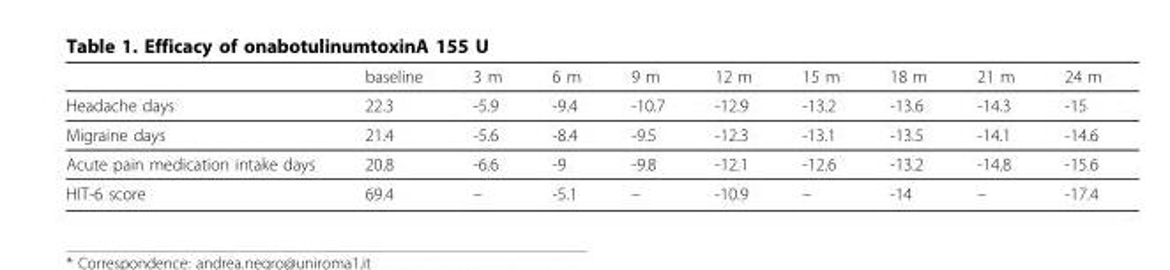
<table><thead><tr><td></td><td>baseline</td><td>3 m</td><td>6 m</td><td>9 m</td><td>12 m</td><td>15 m</td><td>18 m</td><td>21 m</td><td>24 m</td></tr></thead><tbody><tr><td>Headache days</td><td>22.3</td><td>-5.9</td><td>-9.4</td><td>-10.7</td><td>-12.9</td><td>-13.2</td><td>-13.6</td><td>-14.3</td><td>-15</td></tr><tr><td>Migraine days</td><td>21.4</td><td>-5.6</td><td>-8.4</td><td>-9.5</td><td>-12.3</td><td>-13.1</td><td>-13.5</td><td>-14.1</td><td>-14.6</td></tr><tr><td>Acute pain medication intake days</td><td>20.8</td><td>-6.6</td><td>-9</td><td>-9.8</td><td>-12.1</td><td>-12.6</td><td>-13.2</td><td>-14.8</td><td>-15.6</td></tr><tr><td>HIT-6 score</td><td>69.4</td><td>–</td><td>-5.1</td><td>–</td><td>-10.9</td><td>–</td><td>-14</td><td>–</td><td>-17.4</td></tr></tbody></table>